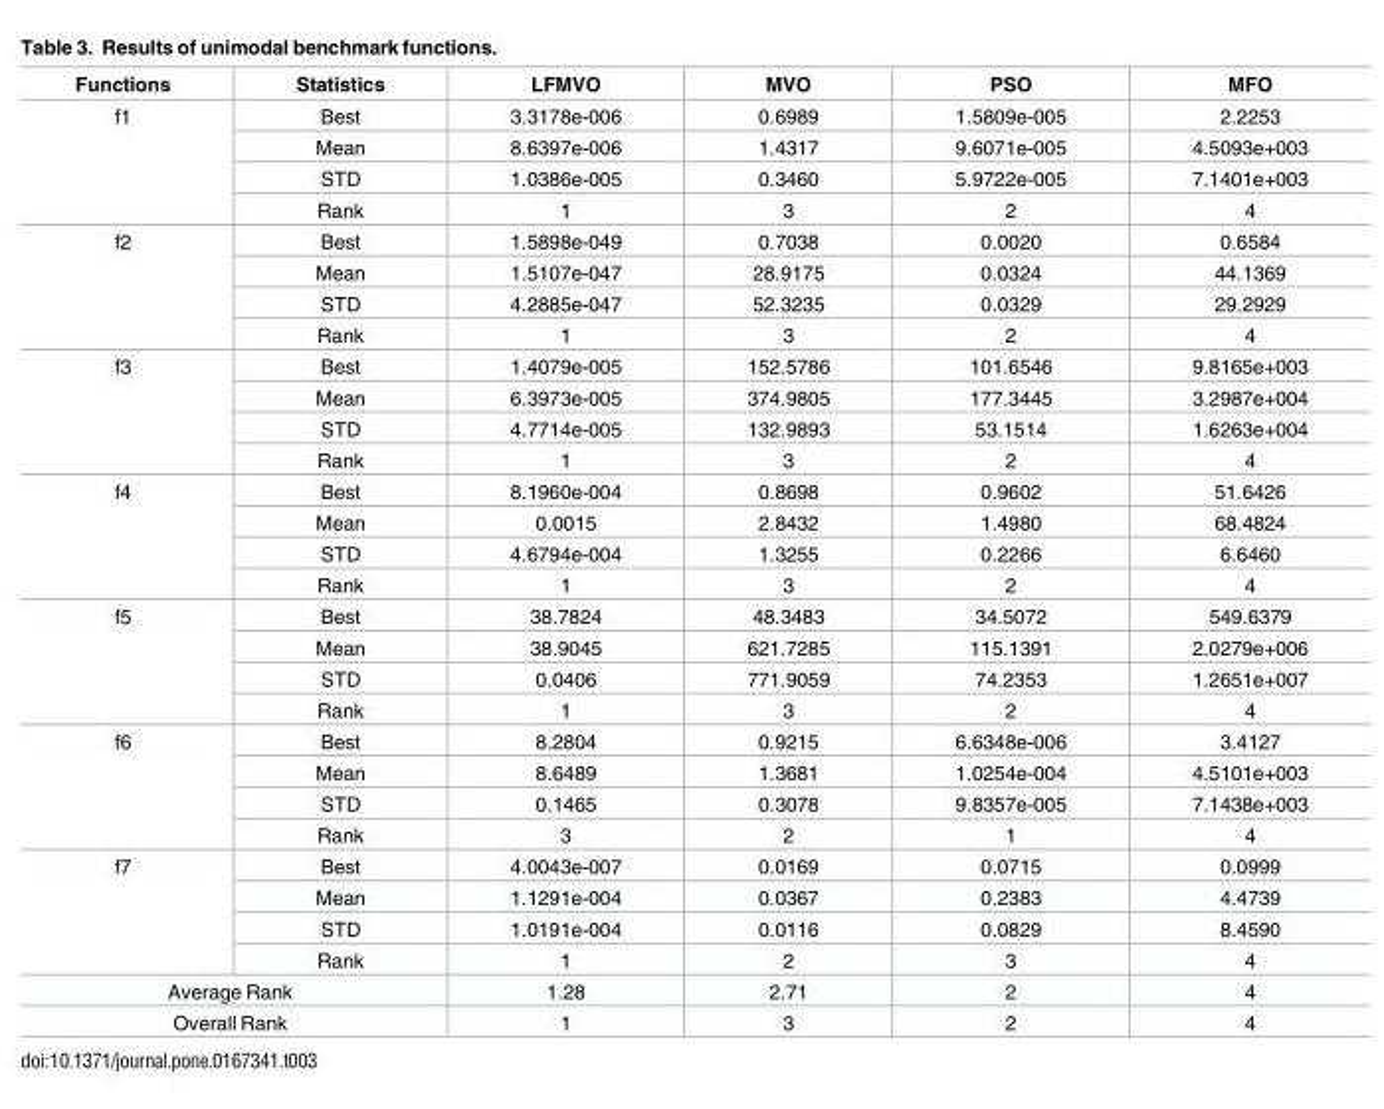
<table><thead><tr><td>Functions</td><td>Statistics</td><td>LFMVO</td><td>MVO</td><td>PSO</td><td>MFO</td></tr></thead><tbody><tr><td rowspan="4">f1</td><td>Best</td><td>3.3178e-006</td><td>0.6989</td><td>1.5809e-005</td><td>2.2253</td></tr><tr><td>Mean</td><td>8.6397e-006</td><td>1.4317</td><td>9.6071e-005</td><td>4.5093e+003</td></tr><tr><td>STD</td><td>1.0386e-005</td><td>0.3460</td><td>5.9722e-005</td><td>7.1401e+003</td></tr><tr><td>Rank</td><td>1</td><td>3</td><td>2</td><td>4</td></tr><tr><td rowspan="4">f2</td><td>Best</td><td>1.5898e-049</td><td>0.7038</td><td>0.0020</td><td>0.6584</td></tr><tr><td>Mean</td><td>1.5107e-047</td><td>28.9175</td><td>0.0324</td><td>44.1369</td></tr><tr><td>STD</td><td>4.2885e-047</td><td>52.3235</td><td>0.0329</td><td>29.2929</td></tr><tr><td>Rank</td><td>1</td><td>3</td><td>2</td><td>4</td></tr><tr><td rowspan="4">f3</td><td>Best</td><td>1.4079e-005</td><td>152.5786</td><td>101.6546</td><td>9.8165e+003</td></tr><tr><td>Mean</td><td>6.3973e-005</td><td>374.9805</td><td>177.3445</td><td>3.2987e+004</td></tr><tr><td>STD</td><td>4.7714e-005</td><td>132.9893</td><td>53.1514</td><td>1.6263e+004</td></tr><tr><td>Rank</td><td>1</td><td>3</td><td>2</td><td>4</td></tr><tr><td rowspan="4">f4</td><td>Best</td><td>8.1960e-004</td><td>0.8698</td><td>0.9602</td><td>51.6426</td></tr><tr><td>Mean</td><td>0.0015</td><td>2.8432</td><td>1.4980</td><td>68.4824</td></tr><tr><td>STD</td><td>4.6794e-004</td><td>1.3255</td><td>0.2266</td><td>6.6460</td></tr><tr><td>Rank</td><td>1</td><td>3</td><td>2</td><td>4</td></tr><tr><td rowspan="4">f5</td><td>Best</td><td>38.7824</td><td>48.3483</td><td>34.5072</td><td>549.6379</td></tr><tr><td>Mean</td><td>38.9045</td><td>621.7285</td><td>115.1391</td><td>2.0279e+006</td></tr><tr><td>STD</td><td>0.0406</td><td>771.9059</td><td>74.2353</td><td>1.2651e+007</td></tr><tr><td>Rank</td><td>1</td><td>3</td><td>2</td><td>4</td></tr><tr><td rowspan="4">f6</td><td>Best</td><td>8.2804</td><td>0.9215</td><td>6.6348e-006</td><td>3.4127</td></tr><tr><td>Mean</td><td>8.6489</td><td>1.3681</td><td>1.0254e-004</td><td>4.5101e+003</td></tr><tr><td>STD</td><td>0.1465</td><td>0.3078</td><td>9.8357e-005</td><td>7.1438e+003</td></tr><tr><td>Rank</td><td>3</td><td>2</td><td>1</td><td>4</td></tr><tr><td rowspan="4">f7</td><td>Best</td><td>4.0043e-007</td><td>0.0169</td><td>0.0715</td><td>0.0999</td></tr><tr><td>Mean</td><td>1.1291e-004</td><td>0.0367</td><td>0.2383</td><td>4.4739</td></tr><tr><td>STD</td><td>1.0191e-004</td><td>0.0116</td><td>0.0829</td><td>8.4590</td></tr><tr><td>Rank</td><td>1</td><td>2</td><td>3</td><td>4</td></tr><tr><td colspan="2">Average Rank</td><td>1.28</td><td>2.71</td><td>2</td><td>4</td></tr><tr><td colspan="2">Overall Rank</td><td>1</td><td>3</td><td>2</td><td>4</td></tr></tbody></table>